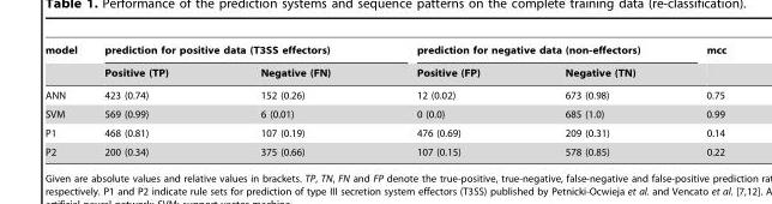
<table><thead><tr><td rowspan="2">model</td><td colspan="2">prediction for positive data (T3SS effectors)</td><td colspan="2">prediction for negative data (non-effectors)</td><td rowspan="2">mcc</td></tr><tr><td>Positive (TP)</td><td>Negative (FN)</td><td>Positive (FP)</td><td>Negative (TN)</td></tr></thead><tbody><tr><td>ANN</td><td>423 (0.74)</td><td>152 (0.26)</td><td>12 (0.02)</td><td>673 (0.98)</td><td>0.75</td></tr><tr><td>SVM</td><td>569 (0.99)</td><td>6 (0.01)</td><td>0 (0.0)</td><td>685 (1.0)</td><td>0.99</td></tr><tr><td>P1</td><td>468 (0.81)</td><td>107 (0.19)</td><td>476 (0.69)</td><td>209 (0.31)</td><td>0.14</td></tr><tr><td>P2</td><td>200 (0.34)</td><td>375 (0.66)</td><td>107 (0.15)</td><td>578 (0.85)</td><td>0.22</td></tr></tbody></table>